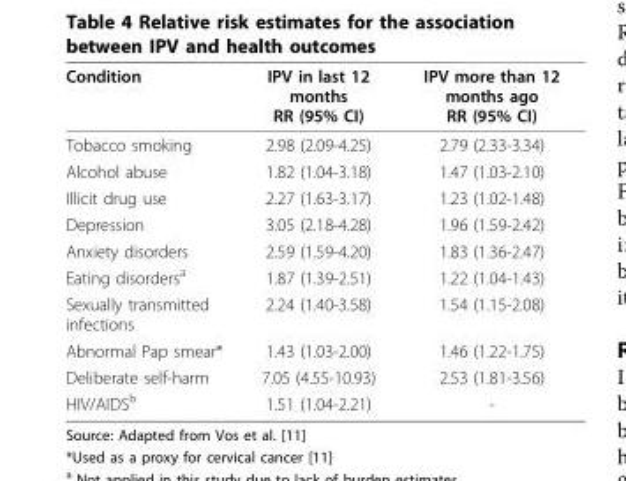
<table><thead><tr><td>Condition</td><td>IPV in last 12 months RR (95% CI)</td><td>IPV more than 12 months ago RR (95% CI)</td></tr></thead><tbody><tr><td>Tobacco smoking</td><td>2.98 (2.09-4.25)</td><td>2.79 (2.33-3.34)</td></tr><tr><td>Alcohol abuse</td><td>1.82 (1.04-3.18)</td><td>1.47 (1.03-2.10)</td></tr><tr><td>Illicit drug use</td><td>2.27 (1.63-3.17)</td><td>1.23 (1.02-1.48)</td></tr><tr><td>Depression</td><td>3.05 (2.18-4.28)</td><td>1.96 (1.59-2.42)</td></tr><tr><td>Anxiety disorders</td><td>2.59 (1.59-4.20)</td><td>1.83 (1.36-2.47)</td></tr><tr><td>Eating disorders<sup>a</sup></td><td>1.87 (1.39-2.51)</td><td>1.22 (1.04-1.43)</td></tr><tr><td>Sexually transmitted infections</td><td>2.24 (1.40-3.58)</td><td>1.54 (1.15-2.08)</td></tr><tr><td>Abnormal Pap smear*</td><td>1.43 (1.03-2.00)</td><td>1.46 (1.22-1.75)</td></tr><tr><td>Deliberate self-harm</td><td>7.05 (4.55-10.93)</td><td>2.53 (1.81-3.56)</td></tr><tr><td>HIV/AIDS<sup>b</sup></td><td>1.51 (1.04-2.21)</td><td>-</td></tr></tbody></table>